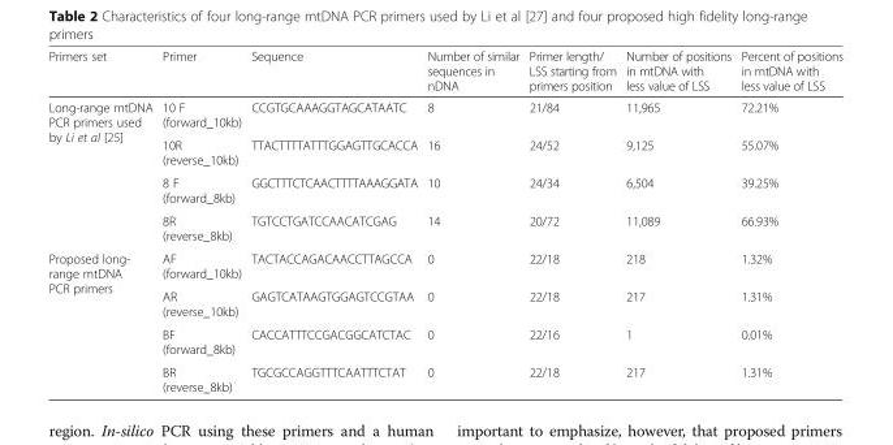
<table><thead><tr><td>Primers set</td><td>Primer</td><td>Sequence</td><td>Number of similar sequences in nDNA</td><td>Primer length/ LSS starting from primers position</td><td>Number of positions in mtDNA with less value of LSS</td><td>Percent of positions in mtDNA with less value of LSS</td></tr></thead><tbody><tr><td rowspan="4">Long-range mtDNA PCR primers used by Li et al [25]</td><td>10 F (forward_10kb)</td><td>CCGTGCAAAGGTAGCATAATC</td><td>8</td><td>21/84</td><td>11,965</td><td>72.21%</td></tr><tr><td>10R (reverse_10kb)</td><td>TTACTTTTATTTGGAGTTGCACCA</td><td>16</td><td>24/52</td><td>9,125</td><td>55.07%</td></tr><tr><td>8 F (forward_8kb)</td><td>GGCTTTCTCAACTTTTAAAGGATA</td><td>10</td><td>24/34</td><td>6,504</td><td>39.25%</td></tr><tr><td>8R (reverse_8kb)</td><td>TGTCCTGATCCAACATCGAG</td><td>14</td><td>20/72</td><td>11,089</td><td>66.93%</td></tr><tr><td rowspan="4">Proposed long- range mtDNA PCR primers</td><td>AF (forward_10kb)</td><td>TACTACCAGACAACCTTAGCCA</td><td>0</td><td>22/18</td><td>218</td><td>1.32%</td></tr><tr><td>AR (reverse_10kb)</td><td>GAGTCATAAGTGGAGTCCGTAA</td><td>0</td><td>22/18</td><td>217</td><td>1.31%</td></tr><tr><td>BF (forward_8kb)</td><td>CACCATTTCCGACGGCATCTAC</td><td>0</td><td>22/16</td><td>1</td><td>0.01%</td></tr><tr><td>BR (reverse_8kb)</td><td>TGCGCCAGGTTTCAATTTCTAT</td><td>0</td><td>22/18</td><td>217</td><td>1.31%</td></tr></tbody></table>